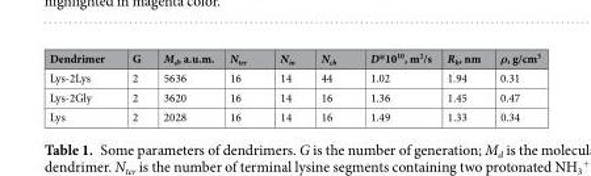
<table><thead><tr><td>Dendrimer</td><td>G</td><td>M<sub>d</sub>, a.u.m.</td><td>N<sub>ter</sub></td><td>N<sub>in</sub></td><td>N<sub>ch</sub></td><td>D*10<sup>10</sup>, m<sup>2</sup>/s</td><td>R<sub>h</sub>, nm</td><td>ρ, g/cm<sup>3</sup></td></tr></thead><tbody><tr><td>Lys-2Lys</td><td>2</td><td>5636</td><td>16</td><td>14</td><td>44</td><td>1.02</td><td>1.94</td><td>0.31</td></tr><tr><td>Lys-2Gly</td><td>2</td><td>3620</td><td>16</td><td>14</td><td>16</td><td>1.36</td><td>1.45</td><td>0.47</td></tr><tr><td>Lys</td><td>2</td><td>2028</td><td>16</td><td>14</td><td>16</td><td>1.49</td><td>1.33</td><td>0.34</td></tr></tbody></table>